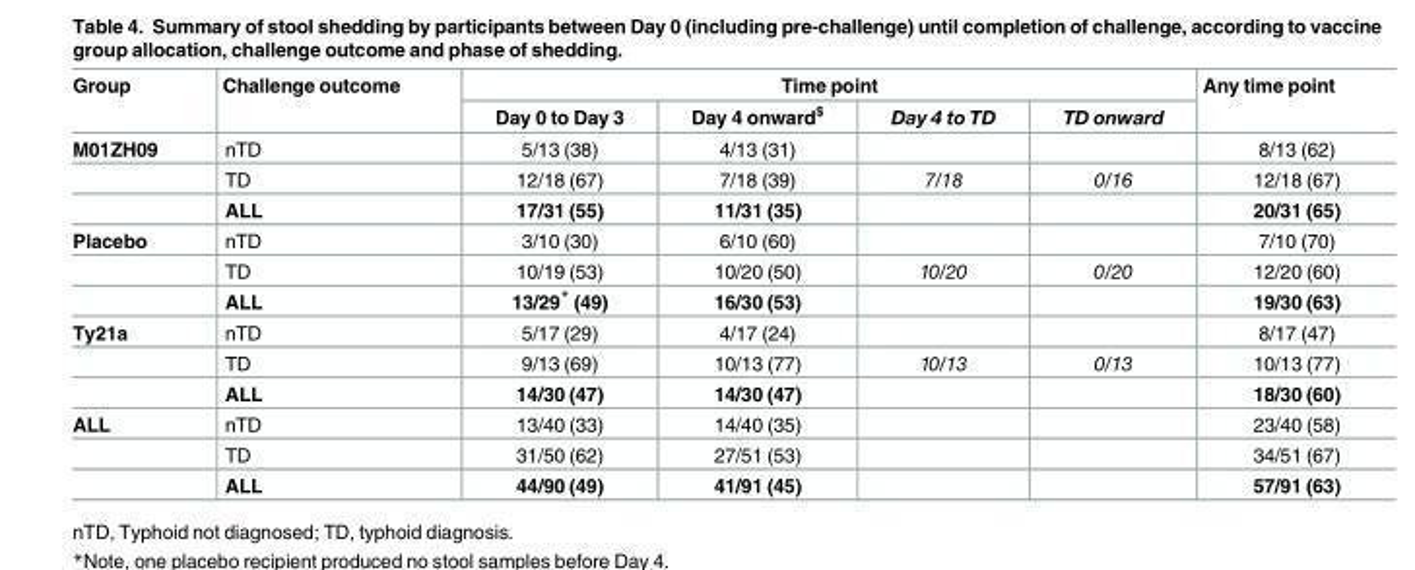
<table><thead><tr><td rowspan="2">Group</td><td rowspan="2">Challenge outcome</td><td colspan="4">Time point</td><td rowspan="2">Any time point</td></tr><tr><td>Day 0 to Day 3</td><td>Day 4 onward<sup>$</sup></td><td>Day 4 to TD</td><td>TD onward</td></tr></thead><tbody><tr><td rowspan="3">M01ZH09</td><td>nTD</td><td>5/13 (38)</td><td>4/13 (31)</td><td></td><td></td><td>8/13 (62)</td></tr><tr><td>TD</td><td>12/18 (67)</td><td>7/18 (39)</td><td>7/18</td><td>0/16</td><td>12/18 (67)</td></tr><tr><td>ALL</td><td>17/31 (55)</td><td>11/31 (35)</td><td></td><td></td><td>20/31 (65)</td></tr><tr><td rowspan="3">Placebo</td><td>nTD</td><td>3/10 (30)</td><td>6/10 (60)</td><td></td><td></td><td>7/10 (70)</td></tr><tr><td>TD</td><td>10/19 (53)</td><td>10/20 (50)</td><td>10/20</td><td>0/20</td><td>12/20 (60)</td></tr><tr><td>ALL</td><td>13/29* (49)</td><td>16/30 (53)</td><td></td><td></td><td>19/30 (63)</td></tr><tr><td rowspan="3">Ty21a</td><td>nTD</td><td>5/17 (29)</td><td>4/17 (24)</td><td></td><td></td><td>8/17 (47)</td></tr><tr><td>TD</td><td>9/13 (69)</td><td>10/13 (77)</td><td>10/13</td><td>0/13</td><td>10/13 (77)</td></tr><tr><td>ALL</td><td>14/30 (47)</td><td>14/30 (47)</td><td></td><td></td><td>18/30 (60)</td></tr><tr><td rowspan="3">ALL</td><td>nTD</td><td>13/40 (33)</td><td>14/40 (35)</td><td></td><td></td><td>23/40 (58)</td></tr><tr><td>TD</td><td>31/50 (62)</td><td>27/51 (53)</td><td></td><td></td><td>34/51 (67)</td></tr><tr><td>ALL</td><td>44/90 (49)</td><td>41/91 (45)</td><td></td><td></td><td>57/91 (63)</td></tr></tbody></table>